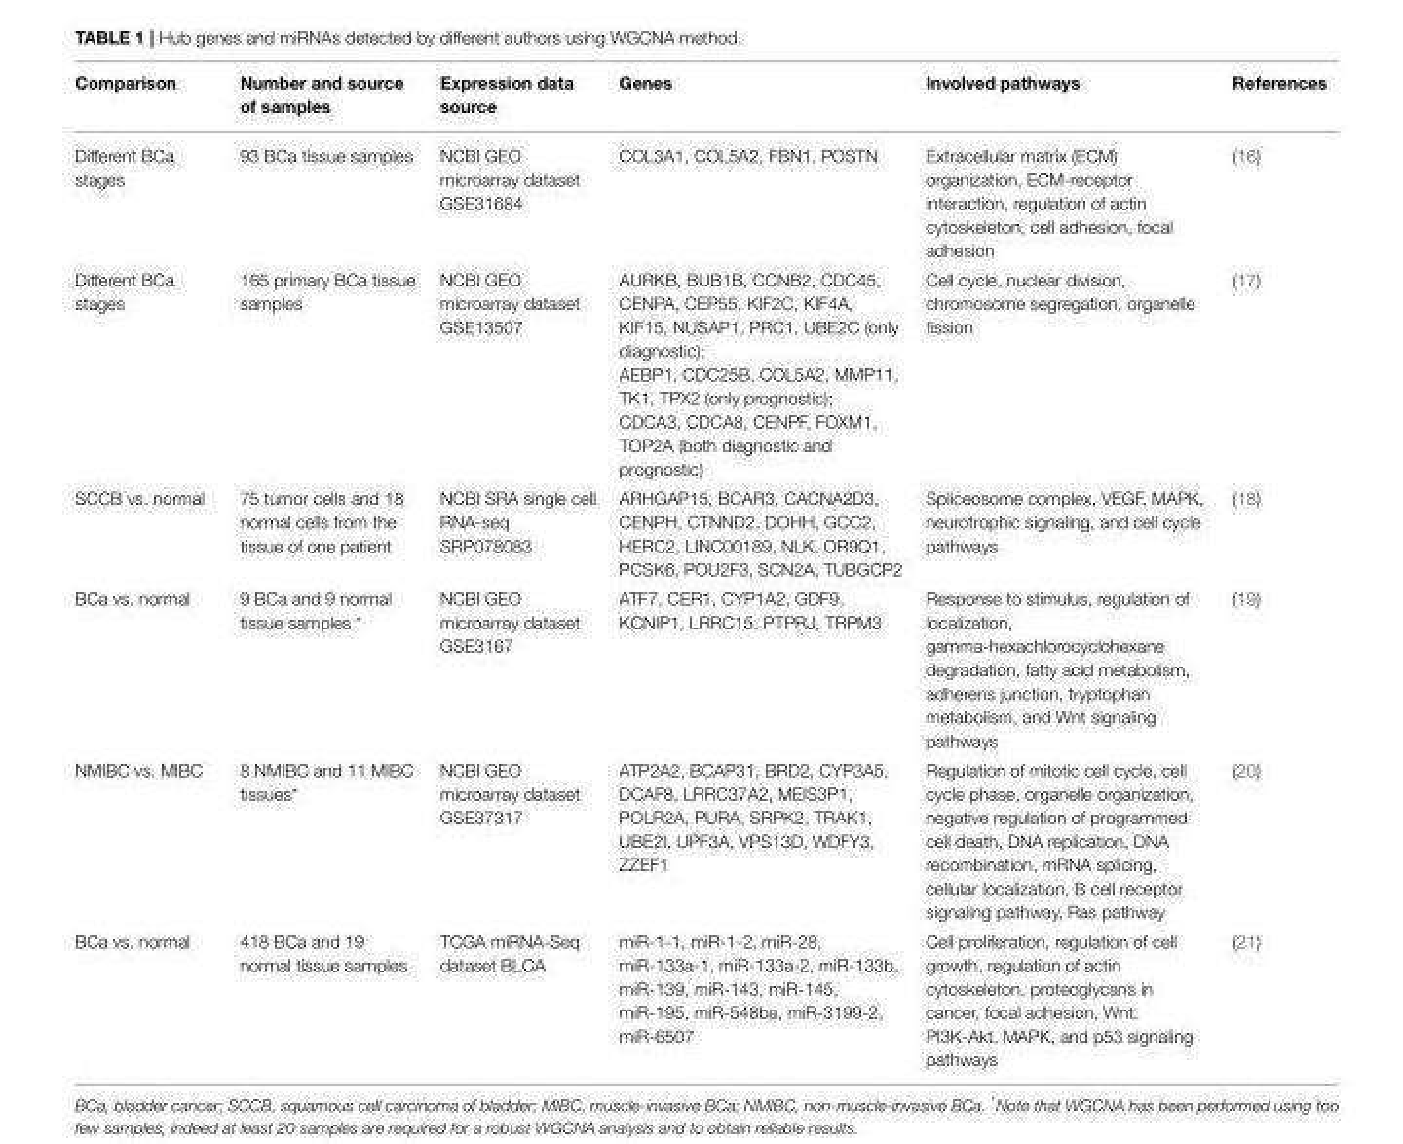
<table><thead><tr><td>Comparison</td><td>Number and source of samples</td><td>Expression data source</td><td>Genes</td><td>Involved pathways</td><td>References</td></tr></thead><tbody><tr><td>Different BCa stages</td><td>93 BCa tissue samples</td><td>NCBI GEO microarray dataset GSE31684</td><td>COL3A1, COL5A2, FBN1, POSTN</td><td>Extracellular matrix (ECM) organization, ECM-receptor interaction, regulation of actin cytoskeleton, cell adhesion, focal adhesion</td><td>(16)</td></tr><tr><td>Different BCa stages</td><td>165 primary BCa tissue samples</td><td>NCBI GEO microarray dataset GSE13507</td><td>AURKB, BUB1B, CCNB2, CDC45, CENPA, CEP55, KIF2C, KIF4A, KIF15, NUSAP1, PRC1, UBE2C (only diagnostic); AEBP1, CDC25B, COL5A2, MMP11, TK1, TPX2 (only prognostic); CDCA3, CDCA8, CENPF, FOXM1, TOP2A (both diagnostic and prognostic)</td><td>Cell cycle, nuclear division, chromosome segregation, organelle fission</td><td>(17)</td></tr><tr><td>SCCB vs. normal</td><td>75 tumor cells and 18 normal cells from the tissue of one patient</td><td>NCBI SRA single cell RNA-seq SRP078083</td><td>ARHGAP15, BCAR3, CACNA2D3, CENPH, CTNND2, DOHH, GCC2, HERC2, LINC00189, NLK, OR9Q1, PCSK6, POU2F3, SCN2A, TUBGCP2</td><td>Spliceosome complex, VEGF, MAPK, neurotrophic signaling, and cell cycle pathways</td><td>(18)</td></tr><tr><td>BCa vs. normal</td><td>9 BCa and 9 normal tissue samples *</td><td>NCBI GEO microarray dataset GSE3167</td><td>ATF7, CER1, CYP1A2, GDF9, KCNIP1, LRRC15, PTPRJ, TRPM3</td><td>Response to stimulus, regulation of localization, gamma-hexachlorocyclohexane degradation, fatty acid metabolism, adherens junction, tryptophan metabolism, and Wnt signaling pathways</td><td>(19)</td></tr><tr><td>NMIBC vs. MIBC</td><td>8 NMIBC and 11 MIBC tissues*</td><td>NCBI GEO microarray dataset GSE37317</td><td>ATP2A2, BCAP31, BRD2, CYP3A5, DCAF8, LRRC37A2, MEIS3P1, POLR2A, PURA, SRPK2, TRAK1, UBE2I, UPF3A, VPS13D, WDFY3, ZZEF1</td><td>Regulation of mitotic cell cycle, cell cycle phase, organelle organization, negative regulation of programmed cell death, DNA replication, DNA recombination, mRNA splicing, cellular localization, B cell receptor signaling pathway, Ras pathway</td><td>(20)</td></tr><tr><td>BCa vs. normal</td><td>418 BCa and 19 normal tissue samples</td><td>TCGA miRNA-Seq dataset BLCA</td><td>miR-1-1, miR-1-2, miR-28, miR-133a-1, miR-133a-2, miR-133b, miR-139, miR-143, miR-145, miR-195, miR-548ba, miR-3199-2, miR-6507</td><td>Cell proliferation, regulation of cell growth, regulation of actin cytoskeleton, proteoglycans in cancer, focal adhesion, Wnt, PI3K-Akt, MAPK, and p53 signaling pathways</td><td>(21)</td></tr></tbody></table>